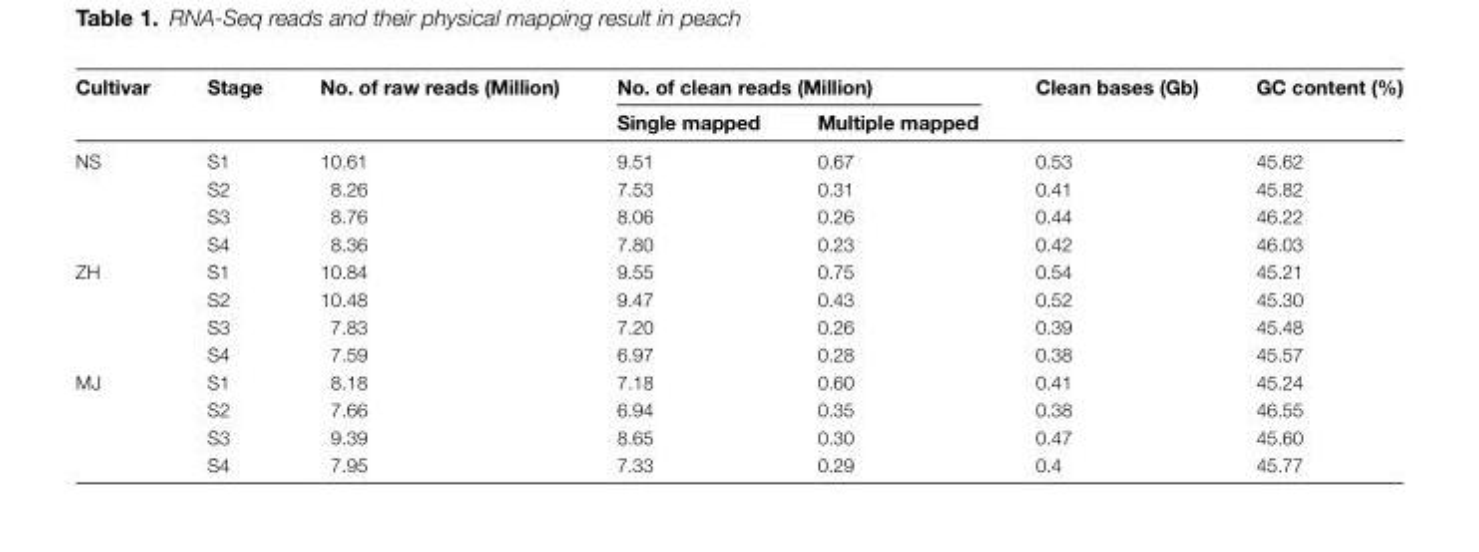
<table><thead><tr><td rowspan="2">Cultivar</td><td rowspan="2">Stage</td><td rowspan="2">No. of raw reads (Million)</td><td colspan="2">No. of clean reads (Million)</td><td rowspan="2">Clean bases (Gb)</td><td rowspan="2">GC content (%)</td></tr><tr><td>Single mapped</td><td>Multiple mapped</td></tr></thead><tbody><tr><td rowspan="4">NS</td><td>S1</td><td>10.61</td><td>9.51</td><td>0.67</td><td>0.53</td><td>45.62</td></tr><tr><td>S2</td><td>8.26</td><td>7.53</td><td>0.31</td><td>0.41</td><td>45.82</td></tr><tr><td>S3</td><td>8.76</td><td>8.06</td><td>0.26</td><td>0.44</td><td>46.22</td></tr><tr><td>S4</td><td>8.36</td><td>7.80</td><td>0.23</td><td>0.42</td><td>46.03</td></tr><tr><td rowspan="4">ZH</td><td>S1</td><td>10.84</td><td>9.55</td><td>0.75</td><td>0.54</td><td>45.21</td></tr><tr><td>S2</td><td>10.48</td><td>9.47</td><td>0.43</td><td>0.52</td><td>45.30</td></tr><tr><td>S3</td><td>7.83</td><td>7.20</td><td>0.26</td><td>0.39</td><td>45.48</td></tr><tr><td>S4</td><td>7.59</td><td>6.97</td><td>0.28</td><td>0.38</td><td>45.57</td></tr><tr><td rowspan="4">MJ</td><td>S1</td><td>8.18</td><td>7.18</td><td>0.60</td><td>0.41</td><td>45.24</td></tr><tr><td>S2</td><td>7.66</td><td>6.94</td><td>0.35</td><td>0.38</td><td>46.55</td></tr><tr><td>S3</td><td>9.39</td><td>8.65</td><td>0.30</td><td>0.47</td><td>45.60</td></tr><tr><td>S4</td><td>7.95</td><td>7.33</td><td>0.29</td><td>0.4</td><td>45.77</td></tr></tbody></table>